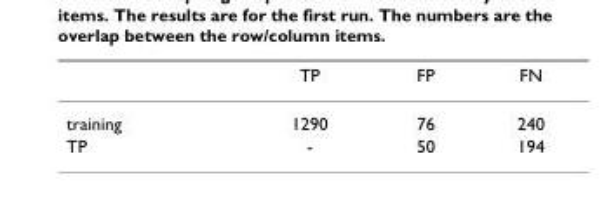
<table><thead><tr><td></td><td>TP</td><td>FP</td><td>FN</td></tr></thead><tbody><tr><td>training</td><td>1290</td><td>76</td><td>240</td></tr><tr><td>TP</td><td>-</td><td>50</td><td>194</td></tr></tbody></table>